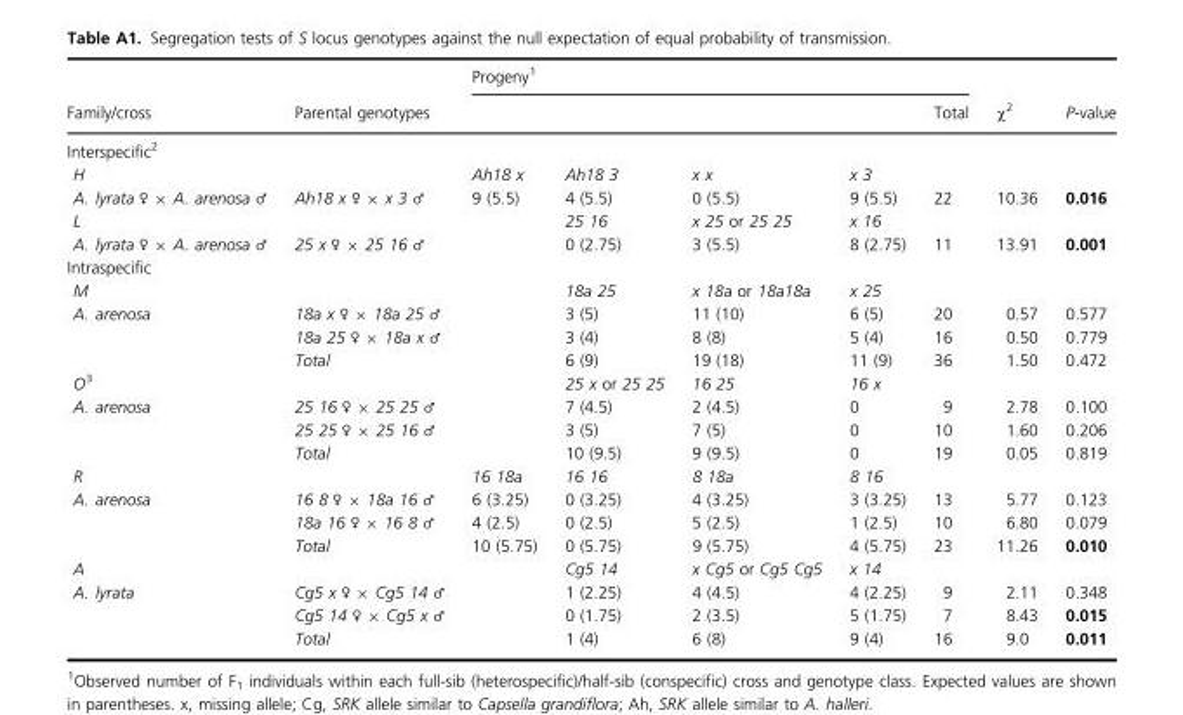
<table><thead><tr><td rowspan="2">Family/cross</td><td rowspan="2">Parental genotypes</td><td colspan="5">Progeny<sup>1</sup></td><td rowspan="2">χ<sup>2</sup></td><td rowspan="2">P-value</td></tr><tr><td></td><td></td><td></td><td></td><td>Total</td></tr></thead><tbody><tr><td colspan="9">Interspecific<sup>2</sup></td></tr><tr><td>H</td><td></td><td>Ah18 x</td><td>Ah18 3</td><td>x x</td><td>x 3</td><td></td><td></td><td></td></tr><tr><td>A. lyrata ♀ × A. arenosa ♂</td><td>Ah18 x ♀ × x 3 ♂</td><td>9 (5.5)</td><td>4 (5.5)</td><td>0 (5.5)</td><td>9 (5.5)</td><td>22</td><td>10.36</td><td>0.016</td></tr><tr><td>L</td><td></td><td></td><td>25 16</td><td>x 25 or 25 25</td><td>x 16</td><td></td><td></td><td></td></tr><tr><td>A. lyrata ♀ × A. arenosa ♂</td><td>25 x ♀ × 25 16 ♂</td><td></td><td>0 (2.75)</td><td>3 (5.5)</td><td>8 (2.75)</td><td>11</td><td>13.91</td><td>0.001</td></tr><tr><td colspan="9">Intraspecific</td></tr><tr><td>M</td><td></td><td></td><td>18a 25</td><td>x 18a or 18a18a</td><td>x 25</td><td></td><td></td><td></td></tr><tr><td rowspan="3">A. arenosa</td><td>18a x ♀ × 18a 25 ♂</td><td></td><td>3 (5)</td><td>11 (10)</td><td>6 (5)</td><td>20</td><td>0.57</td><td>0.577</td></tr><tr><td>18a 25 ♀ × 18a x ♂</td><td></td><td>3 (4)</td><td>8 (8)</td><td>5 (4)</td><td>16</td><td>0.50</td><td>0.779</td></tr><tr><td>Total</td><td></td><td>6 (9)</td><td>19 (18)</td><td>11 (9)</td><td>36</td><td>1.50</td><td>0.472</td></tr><tr><td>O<sup>3</sup></td><td></td><td></td><td>25 x or 25 25</td><td>16 25</td><td>16 x</td><td></td><td></td><td></td></tr><tr><td rowspan="3">A. arenosa</td><td>25 16 ♀ × 25 25 ♂</td><td></td><td>7 (4.5)</td><td>2 (4.5)</td><td>0</td><td>9</td><td>2.78</td><td>0.100</td></tr><tr><td>25 25 ♀ × 25 16 ♂</td><td></td><td>3 (5)</td><td>7 (5)</td><td>0</td><td>10</td><td>1.60</td><td>0.206</td></tr><tr><td>Total</td><td></td><td>10 (9.5)</td><td>9 (9.5)</td><td>0</td><td>19</td><td>0.05</td><td>0.819</td></tr><tr><td>R</td><td></td><td>16 18a</td><td>16 16</td><td>8 18a</td><td>8 16</td><td></td><td></td><td></td></tr><tr><td rowspan="3">A. arenosa</td><td>16 8 ♀ × 18a 16 ♂</td><td>6 (3.25)</td><td>0 (3.25)</td><td>4 (3.25)</td><td>3 (3.25)</td><td>13</td><td>5.77</td><td>0.123</td></tr><tr><td>18a 16 ♀ × 16 8 ♂</td><td>4 (2.5)</td><td>0 (2.5)</td><td>5 (2.5)</td><td>1 (2.5)</td><td>10</td><td>6.80</td><td>0.079</td></tr><tr><td>Total</td><td>10 (5.75)</td><td>0 (5.75)</td><td>9 (5.75)</td><td>4 (5.75)</td><td>23</td><td>11.26</td><td>0.010</td></tr><tr><td>A</td><td></td><td></td><td>Cg5 14</td><td>x Cg5 or Cg5 Cg5</td><td>x 14</td><td></td><td></td><td></td></tr><tr><td rowspan="3">A. lyrata</td><td>Cg5 x ♀ × Cg5 14 ♂</td><td></td><td>1 (2.25)</td><td>4 (4.5)</td><td>4 (2.25)</td><td>9</td><td>2.11</td><td>0.348</td></tr><tr><td>Cg5 14 ♀ × Cg5 x ♂</td><td></td><td>0 (1.75)</td><td>2 (3.5)</td><td>5 (1.75)</td><td>7</td><td>8.43</td><td>0.015</td></tr><tr><td>Total</td><td></td><td>1 (4)</td><td>6 (8)</td><td>9 (4)</td><td>16</td><td>9.0</td><td>0.011</td></tr></tbody></table>